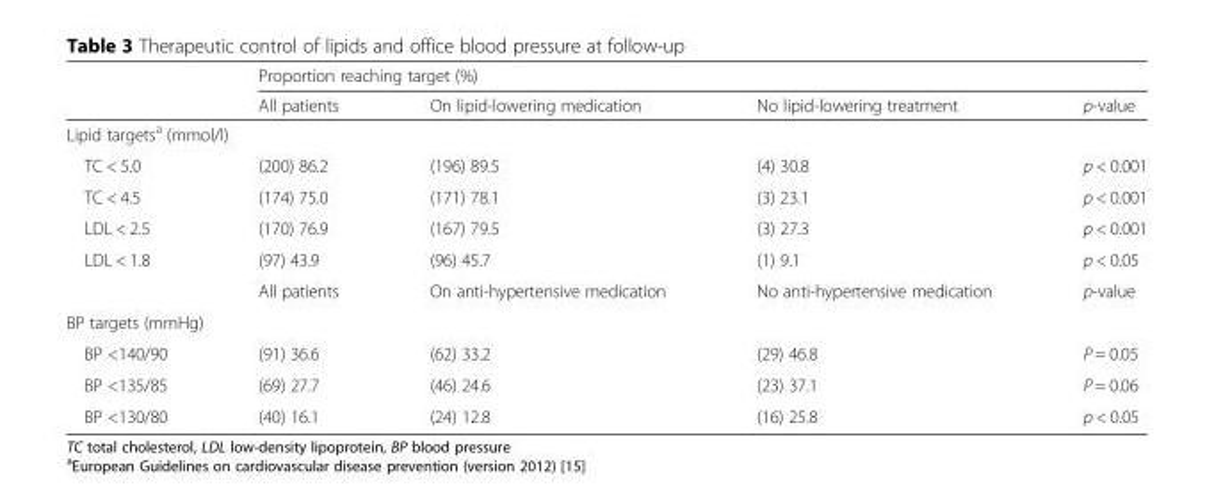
<table><thead><tr><td rowspan="2"></td><td colspan="4">Proportion reaching target (%)</td></tr><tr><td>All patients</td><td>On lipid-lowering medication</td><td>No lipid-lowering treatment</td><td>p-value</td></tr></thead><tbody><tr><td colspan="5">Lipid targets<sup>a</sup> (mmol/l)</td></tr><tr><td>TC &lt; 5.0</td><td>(200) 86.2</td><td>(196) 89.5</td><td>(4) 30.8</td><td>p &lt; 0.001</td></tr><tr><td>TC &lt; 4.5</td><td>(174) 75.0</td><td>(171) 78.1</td><td>(3) 23.1</td><td>p &lt; 0.001</td></tr><tr><td>LDL &lt; 2.5</td><td>(170) 76.9</td><td>(167) 79.5</td><td>(3) 27.3</td><td>p &lt; 0.001</td></tr><tr><td rowspan="2">LDL &lt; 1.8</td><td>(97) 43.9</td><td>(96) 45.7</td><td>(1) 9.1</td><td>p &lt; 0.05</td></tr><tr><td>All patients</td><td>On anti-hypertensive medication</td><td>No anti-hypertensive medication</td><td>p-value</td></tr><tr><td colspan="5">BP targets (mmHg)</td></tr><tr><td>BP &lt;140/90</td><td>(91) 36.6</td><td>(62) 33.2</td><td>(29) 46.8</td><td>P = 0.05</td></tr><tr><td>BP &lt;135/85</td><td>(69) 27.7</td><td>(46) 24.6</td><td>(23) 37.1</td><td>P = 0.06</td></tr><tr><td>BP &lt;130/80</td><td>(40) 16.1</td><td>(24) 12.8</td><td>(16) 25.8</td><td>p &lt; 0.05</td></tr></tbody></table>